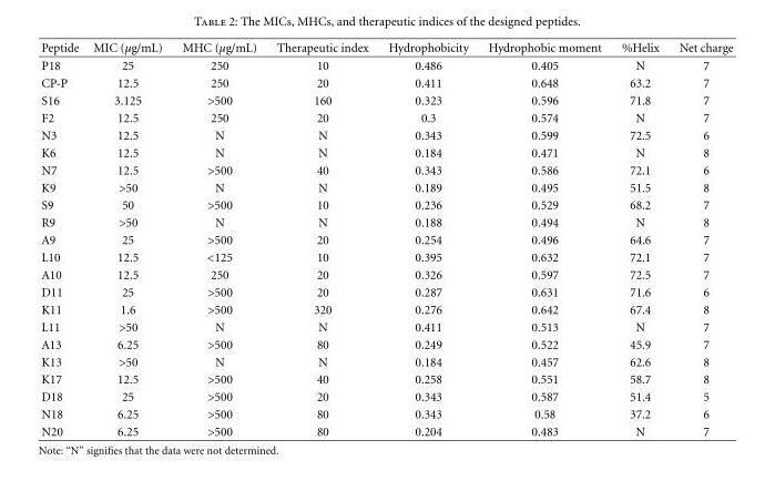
<table><thead><tr><td>Peptide</td><td>MIC (μg/mL)</td><td>MHC (μg/mL)</td><td>Therapeutic index</td><td>Hydrophobicity</td><td>Hydrophobic moment</td><td>%Helix</td><td>Net charge</td></tr></thead><tbody><tr><td>P18</td><td>25</td><td>250</td><td>10</td><td>0.486</td><td>0.405</td><td>N</td><td>7</td></tr><tr><td>CP-P</td><td>12.5</td><td>250</td><td>20</td><td>0.411</td><td>0.648</td><td>63.2</td><td>7</td></tr><tr><td>S16</td><td>3.125</td><td>&gt;500</td><td>160</td><td>0.323</td><td>0.596</td><td>71.8</td><td>7</td></tr><tr><td>F2</td><td>12.5</td><td>250</td><td>20</td><td>0.3</td><td>0.574</td><td>N</td><td>7</td></tr><tr><td>N3</td><td>12.5</td><td>N</td><td>N</td><td>0.343</td><td>0.599</td><td>72.5</td><td>6</td></tr><tr><td>K6</td><td>12.5</td><td>N</td><td>N</td><td>0.184</td><td>0.471</td><td>N</td><td>8</td></tr><tr><td>N7</td><td>12.5</td><td>&gt;500</td><td>40</td><td>0.343</td><td>0.586</td><td>72.1</td><td>6</td></tr><tr><td>K9</td><td>&gt;50</td><td>N</td><td>N</td><td>0.189</td><td>0.495</td><td>51.5</td><td>8</td></tr><tr><td>S9</td><td>50</td><td>&gt;500</td><td>10</td><td>0.236</td><td>0.529</td><td>68.2</td><td>7</td></tr><tr><td>R9</td><td>&gt;50</td><td>N</td><td>N</td><td>0.188</td><td>0.494</td><td>N</td><td>8</td></tr><tr><td>A9</td><td>25</td><td>&gt;500</td><td>20</td><td>0.254</td><td>0.496</td><td>64.6</td><td>7</td></tr><tr><td>L10</td><td>12.5</td><td>&lt;125</td><td>10</td><td>0.395</td><td>0.632</td><td>72.1</td><td>7</td></tr><tr><td>A10</td><td>12.5</td><td>250</td><td>20</td><td>0.326</td><td>0.597</td><td>72.5</td><td>7</td></tr><tr><td>D11</td><td>25</td><td>&gt;500</td><td>20</td><td>0.287</td><td>0.631</td><td>71.6</td><td>6</td></tr><tr><td>K11</td><td>1.6</td><td>&gt;500</td><td>320</td><td>0.276</td><td>0.642</td><td>67.4</td><td>8</td></tr><tr><td>L11</td><td>&gt;50</td><td>N</td><td>N</td><td>0.411</td><td>0.513</td><td>N</td><td>7</td></tr><tr><td>A13</td><td>6.25</td><td>&gt;500</td><td>80</td><td>0.249</td><td>0.522</td><td>45.9</td><td>7</td></tr><tr><td>K13</td><td>&gt;50</td><td>N</td><td>N</td><td>0.184</td><td>0.457</td><td>62.6</td><td>8</td></tr><tr><td>K17</td><td>12.5</td><td>&gt;500</td><td>40</td><td>0.258</td><td>0.551</td><td>58.7</td><td>8</td></tr><tr><td>D18</td><td>25</td><td>&gt;500</td><td>20</td><td>0.343</td><td>0.587</td><td>51.4</td><td>5</td></tr><tr><td>N18</td><td>6.25</td><td>&gt;500</td><td>80</td><td>0.343</td><td>0.58</td><td>37.2</td><td>6</td></tr><tr><td>N20</td><td>6.25</td><td>&gt;500</td><td>80</td><td>0.204</td><td>0.483</td><td>N</td><td>7</td></tr></tbody></table>